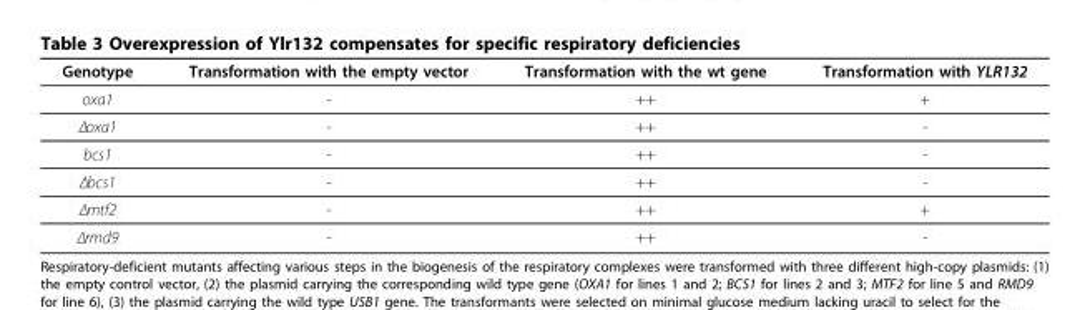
<table><thead><tr><td>Genotype</td><td>Transformation with the empty vector</td><td>Transformation with the wt gene</td><td>Transformation with YLR132</td></tr></thead><tbody><tr><td>oxa1</td><td>-</td><td>++</td><td>+</td></tr><tr><td>Δoxa1</td><td>-</td><td>++</td><td>-</td></tr><tr><td>bcs1</td><td>-</td><td>++</td><td>-</td></tr><tr><td>Δbcs1</td><td>-</td><td>++</td><td>-</td></tr><tr><td>Δmtf2</td><td>-</td><td>++</td><td>+</td></tr><tr><td>Δrmd9</td><td>-</td><td>++</td><td>-</td></tr></tbody></table>